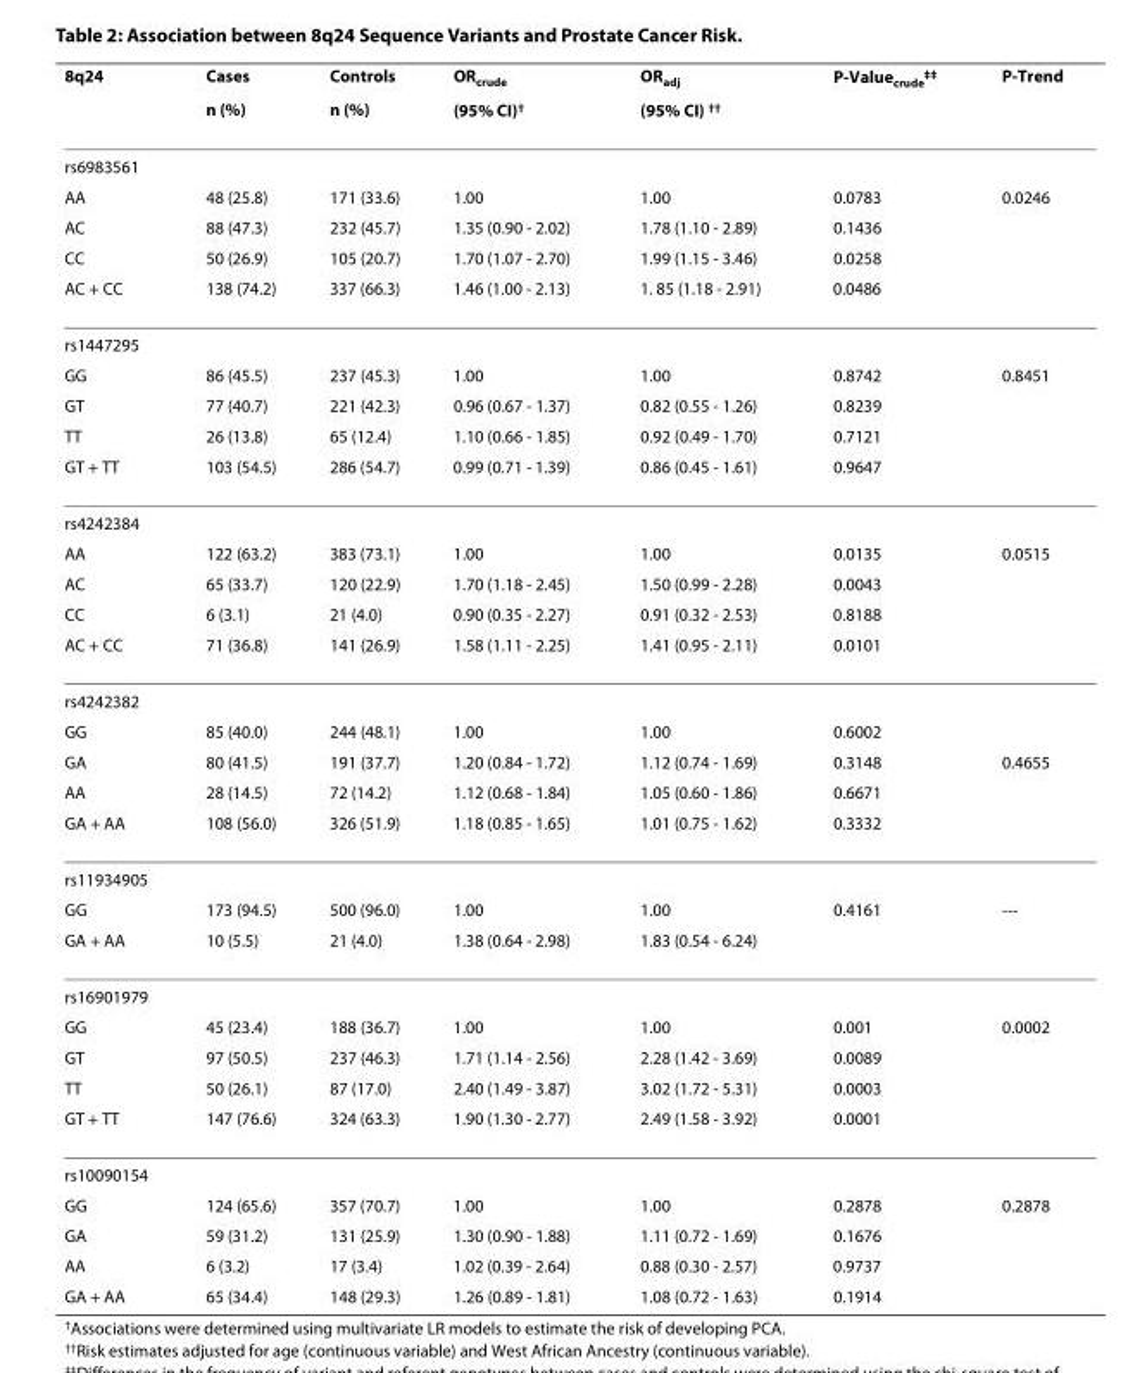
<table><thead><tr><td rowspan="2">8q24</td><td rowspan="2">Cases n (%)</td><td rowspan="2">Controls n (%)</td><td rowspan="2">OR<sub>crude</sub> (95% CI)<sup>†</sup></td><td rowspan="2">OR<sub>adj</sub> (95% CI) <sup>††</sup></td><td rowspan="2">P-Value<sub>crude</sub><sup>‡‡</sup></td><td rowspan="2">P-Trend</td></tr><tr></tr></thead><tbody><tr><td colspan="7">rs6983561</td></tr><tr><td>AA</td><td>48 (25.8)</td><td>171 (33.6)</td><td>1.00</td><td>1.00</td><td>0.0783</td><td>0.0246</td></tr><tr><td>AC</td><td>88 (47.3)</td><td>232 (45.7)</td><td>1.35 (0.90 - 2.02)</td><td>1.78 (1.10 - 2.89)</td><td>0.1436</td><td></td></tr><tr><td>CC</td><td>50 (26.9)</td><td>105 (20.7)</td><td>1.70 (1.07 - 2.70)</td><td>1.99 (1.15 - 3.46)</td><td>0.0258</td><td></td></tr><tr><td>AC + CC</td><td>138 (74.2)</td><td>337 (66.3)</td><td>1.46 (1.00 - 2.13)</td><td>1. 85 (1.18 - 2.91)</td><td>0.0486</td><td></td></tr><tr><td colspan="7">rs1447295</td></tr><tr><td>GG</td><td>86 (45.5)</td><td>237 (45.3)</td><td>1.00</td><td>1.00</td><td>0.8742</td><td>0.8451</td></tr><tr><td>GT</td><td>77 (40.7)</td><td>221 (42.3)</td><td>0.96 (0.67 - 1.37)</td><td>0.82 (0.55 - 1.26)</td><td>0.8239</td><td></td></tr><tr><td>TT</td><td>26 (13.8)</td><td>65 (12.4)</td><td>1.10 (0.66 - 1.85)</td><td>0.92 (0.49 - 1.70)</td><td>0.7121</td><td></td></tr><tr><td>GT + TT</td><td>103 (54.5)</td><td>286 (54.7)</td><td>0.99 (0.71 - 1.39)</td><td>0.86 (0.45 - 1.61)</td><td>0.9647</td><td></td></tr><tr><td colspan="7">rs4242384</td></tr><tr><td>AA</td><td>122 (63.2)</td><td>383 (73.1)</td><td>1.00</td><td>1.00</td><td>0.0135</td><td>0.0515</td></tr><tr><td>AC</td><td>65 (33.7)</td><td>120 (22.9)</td><td>1.70 (1.18 - 2.45)</td><td>1.50 (0.99 - 2.28)</td><td>0.0043</td><td></td></tr><tr><td>CC</td><td>6 (3.1)</td><td>21 (4.0)</td><td>0.90 (0.35 - 2.27)</td><td>0.91 (0.32 - 2.53)</td><td>0.8188</td><td></td></tr><tr><td>AC + CC</td><td>71 (36.8)</td><td>141 (26.9)</td><td>1.58 (1.11 - 2.25)</td><td>1.41 (0.95 - 2.11)</td><td>0.0101</td><td></td></tr><tr><td colspan="7">rs4242382</td></tr><tr><td>GG</td><td>85 (40.0)</td><td>244 (48.1)</td><td>1.00</td><td>1.00</td><td>0.6002</td><td></td></tr><tr><td>GA</td><td>80 (41.5)</td><td>191 (37.7)</td><td>1.20 (0.84 - 1.72)</td><td>1.12 (0.74 - 1.69)</td><td>0.3148</td><td>0.4655</td></tr><tr><td>AA</td><td>28 (14.5)</td><td>72 (14.2)</td><td>1.12 (0.68 - 1.84)</td><td>1.05 (0.60 - 1.86)</td><td>0.6671</td><td></td></tr><tr><td>GA + AA</td><td>108 (56.0)</td><td>326 (51.9)</td><td>1.18 (0.85 - 1.65)</td><td>1.01 (0.75 - 1.62)</td><td>0.3332</td><td></td></tr><tr><td colspan="7">rs11934905</td></tr><tr><td>GG</td><td>173 (94.5)</td><td>500 (96.0)</td><td>1.00</td><td>1.00</td><td>0.4161</td><td>---</td></tr><tr><td>GA + AA</td><td>10 (5.5)</td><td>21 (4.0)</td><td>1.38 (0.64 - 2.98)</td><td>1.83 (0.54 - 6.24)</td><td></td><td></td></tr><tr><td colspan="7">rs16901979</td></tr><tr><td>GG</td><td>45 (23.4)</td><td>188 (36.7)</td><td>1.00</td><td>1.00</td><td>0.001</td><td>0.0002</td></tr><tr><td>GT</td><td>97 (50.5)</td><td>237 (46.3)</td><td>1.71 (1.14 - 2.56)</td><td>2.28 (1.42 - 3.69)</td><td>0.0089</td><td></td></tr><tr><td>TT</td><td>50 (26.1)</td><td>87 (17.0)</td><td>2.40 (1.49 - 3.87)</td><td>3.02 (1.72 - 5.31)</td><td>0.0003</td><td></td></tr><tr><td>GT + TT</td><td>147 (76.6)</td><td>324 (63.3)</td><td>1.90 (1.30 - 2.77)</td><td>2.49 (1.58 - 3.92)</td><td>0.0001</td><td></td></tr><tr><td colspan="7">rs10090154</td></tr><tr><td>GG</td><td>124 (65.6)</td><td>357 (70.7)</td><td>1.00</td><td>1.00</td><td>0.2878</td><td>0.2878</td></tr><tr><td>GA</td><td>59 (31.2)</td><td>131 (25.9)</td><td>1.30 (0.90 - 1.88)</td><td>1.11 (0.72 - 1.69)</td><td>0.1676</td><td></td></tr><tr><td>AA</td><td>6 (3.2)</td><td>17 (3.4)</td><td>1.02 (0.39 - 2.64)</td><td>0.88 (0.30 - 2.57)</td><td>0.9737</td><td></td></tr><tr><td>GA + AA</td><td>65 (34.4)</td><td>148 (29.3)</td><td>1.26 (0.89 - 1.81)</td><td>1.08 (0.72 - 1.63)</td><td>0.1914</td><td></td></tr></tbody></table>